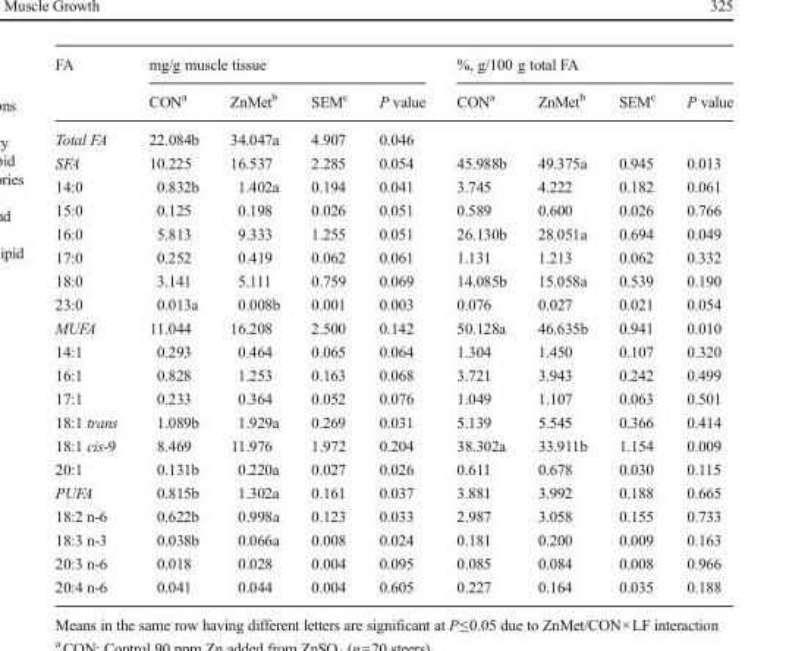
<table><thead><tr><td rowspan="2">FA</td><td colspan="4">mg/g muscle tissue</td><td colspan="4">%, g/100 g total FA</td></tr><tr><td>CON<sup>a</sup></td><td>ZnMet<sup>b</sup></td><td>SEM<sup>c</sup></td><td>P value</td><td>CON<sup>a</sup></td><td>ZnMet<sup>b</sup></td><td>SEM<sup>c</sup></td><td>P value</td></tr></thead><tbody><tr><td>Total FA</td><td>22.084b</td><td>34.047a</td><td>4.907</td><td>0.046</td><td></td><td></td><td></td><td></td></tr><tr><td>SFA</td><td>10.225</td><td>16.537</td><td>2.285</td><td>0.054</td><td>45.988b</td><td>49.375a</td><td>0.945</td><td>0.013</td></tr><tr><td>14:0</td><td>0.832b</td><td>1.402a</td><td>0.194</td><td>0.041</td><td>3.745</td><td>4.222</td><td>0.182</td><td>0.061</td></tr><tr><td>15:0</td><td>0.125</td><td>0.198</td><td>0.026</td><td>0.051</td><td>0.589</td><td>0.600</td><td>0.026</td><td>0.766</td></tr><tr><td>16:0</td><td>5.813</td><td>9.333</td><td>1.255</td><td>0.051</td><td>26.130b</td><td>28.051a</td><td>0.694</td><td>0.049</td></tr><tr><td>17:0</td><td>0.252</td><td>0.419</td><td>0.062</td><td>0.061</td><td>1.131</td><td>1.213</td><td>0.062</td><td>0.332</td></tr><tr><td>18:0</td><td>3.141</td><td>5.111</td><td>0.759</td><td>0.069</td><td>14.085b</td><td>15.058a</td><td>0.539</td><td>0.190</td></tr><tr><td>23:0</td><td>0.013a</td><td>0.008b</td><td>0.001</td><td>0.003</td><td>0.076</td><td>0.027</td><td>0.021</td><td>0.054</td></tr><tr><td>MUFA</td><td>11.044</td><td>16.208</td><td>2.500</td><td>0.142</td><td>50.128a</td><td>46.635b</td><td>0.941</td><td>0.010</td></tr><tr><td>14:1</td><td>0.293</td><td>0.464</td><td>0.065</td><td>0.064</td><td>1.304</td><td>1.450</td><td>0.107</td><td>0.320</td></tr><tr><td>16:1</td><td>0.828</td><td>1.253</td><td>0.163</td><td>0.068</td><td>3.721</td><td>3.943</td><td>0.242</td><td>0.499</td></tr><tr><td>17:1</td><td>0.233</td><td>0.364</td><td>0.052</td><td>0.076</td><td>1.049</td><td>1.107</td><td>0.063</td><td>0.501</td></tr><tr><td>18:1 trans</td><td>1.089b</td><td>1.929a</td><td>0.269</td><td>0.031</td><td>5.139</td><td>5.545</td><td>0.366</td><td>0.414</td></tr><tr><td>18:1 cis-9</td><td>8.469</td><td>11.976</td><td>1.972</td><td>0.204</td><td>38.302a</td><td>33.911b</td><td>1.154</td><td>0.009</td></tr><tr><td>20:1</td><td>0.131b</td><td>0.220a</td><td>0.027</td><td>0.026</td><td>0.611</td><td>0.678</td><td>0.030</td><td>0.115</td></tr><tr><td>PUFA</td><td>0.815b</td><td>1.302a</td><td>0.161</td><td>0.037</td><td>3.881</td><td>3.992</td><td>0.188</td><td>0.665</td></tr><tr><td>18:2 n-6</td><td>0.622b</td><td>0.998a</td><td>0.123</td><td>0.033</td><td>2.987</td><td>3.058</td><td>0.155</td><td>0.733</td></tr><tr><td>18:3 n-3</td><td>0.038b</td><td>0.066a</td><td>0.008</td><td>0.024</td><td>0.181</td><td>0.200</td><td>0.009</td><td>0.163</td></tr><tr><td>20:3 n-6</td><td>0.018</td><td>0.028</td><td>0.004</td><td>0.095</td><td>0.085</td><td>0.084</td><td>0.008</td><td>0.966</td></tr><tr><td>20:4 n-6</td><td>0.041</td><td>0.044</td><td>0.004</td><td>0.605</td><td>0.227</td><td>0.164</td><td>0.035</td><td>0.188</td></tr></tbody></table>